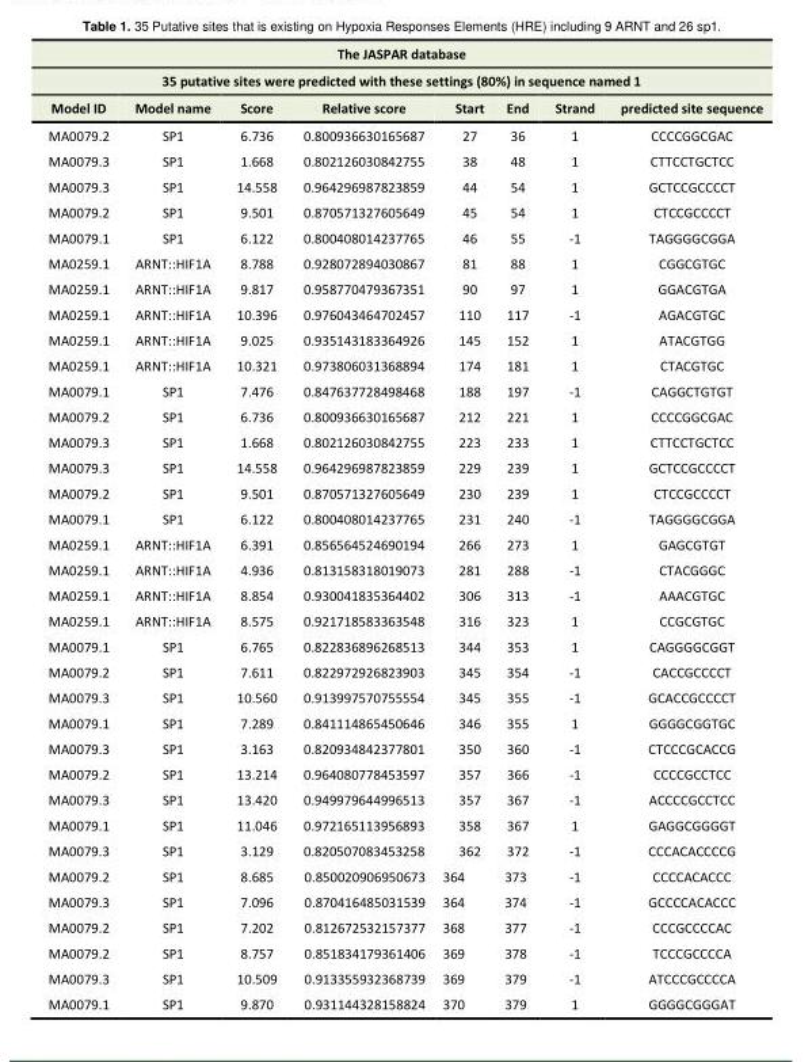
<table><tbody><tr><td colspan="8">The JASPAR database</td></tr><tr><td colspan="8">35 putative sites were predicted with these settings (80%) in sequence named 1</td></tr><tr><td>Model ID</td><td>Model name</td><td>Score</td><td>Relative score</td><td>Start</td><td>End</td><td>Strand</td><td>predicted site sequence</td></tr><tr><td>MA0079.2</td><td>SP1</td><td>6.736</td><td>0.800936630165687</td><td>27</td><td>36</td><td>1</td><td>CCCCGGCGAC</td></tr><tr><td>MA0079.3</td><td>SP1</td><td>1.668</td><td>0.802126030842755</td><td>38</td><td>48</td><td>1</td><td>CTTCCTGCTCC</td></tr><tr><td>MA0079.3</td><td>SP1</td><td>14.558</td><td>0.964296987823859</td><td>44</td><td>54</td><td>1</td><td>GCTCCGCCCCT</td></tr><tr><td>MA0079.2</td><td>SP1</td><td>9.501</td><td>0.870571327605649</td><td>45</td><td>54</td><td>1</td><td>CTCCGCCCCT</td></tr><tr><td>MA0079.1</td><td>SP1</td><td>6.122</td><td>0.800408014237765</td><td>46</td><td>55</td><td>-1</td><td>TAGGGGCGGA</td></tr><tr><td>MA0259.1</td><td>ARNT::HIF1A</td><td>8.788</td><td>0.928072894030867</td><td>81</td><td>88</td><td>1</td><td>CGGCGTGC</td></tr><tr><td>MA0259.1</td><td>ARNT::HIF1A</td><td>9.817</td><td>0.958770479367351</td><td>90</td><td>97</td><td>1</td><td>GGACGTGA</td></tr><tr><td>MA0259.1</td><td>ARNT::HIF1A</td><td>10.396</td><td>0.976043464702457</td><td>110</td><td>117</td><td>-1</td><td>AGACGTGC</td></tr><tr><td>MA0259.1</td><td>ARNT::HIF1A</td><td>9.025</td><td>0.935143183364926</td><td>145</td><td>152</td><td>1</td><td>ATACGTGG</td></tr><tr><td>MA0259.1</td><td>ARNT::HIF1A</td><td>10.321</td><td>0.973806031368894</td><td>174</td><td>181</td><td>1</td><td>CTACGTGC</td></tr><tr><td>MA0079.1</td><td>SP1</td><td>7.476</td><td>0.847637728498468</td><td>188</td><td>197</td><td>-1</td><td>CAGGCTGTGT</td></tr><tr><td>MA0079.2</td><td>SP1</td><td>6.736</td><td>0.800936630165687</td><td>212</td><td>221</td><td>1</td><td>CCCCGGCGAC</td></tr><tr><td>MA0079.3</td><td>SP1</td><td>1.668</td><td>0.802126030842755</td><td>223</td><td>233</td><td>1</td><td>CTTCCTGCTCC</td></tr><tr><td>MA0079.3</td><td>SP1</td><td>14.558</td><td>0.964296987823859</td><td>229</td><td>239</td><td>1</td><td>GCTCCGCCCCT</td></tr><tr><td>MA0079.2</td><td>SP1</td><td>9.501</td><td>0.870571327605649</td><td>230</td><td>239</td><td>1</td><td>CTCCGCCCCT</td></tr><tr><td>MA0079.1</td><td>SP1</td><td>6.122</td><td>0.800408014237765</td><td>231</td><td>240</td><td>-1</td><td>TAGGGGCGGA</td></tr><tr><td>MA0259.1</td><td>ARNT::HIF1A</td><td>6.391</td><td>0.856564524690194</td><td>266</td><td>273</td><td>1</td><td>GAGCGTGT</td></tr><tr><td>MA0259.1</td><td>ARNT::HIF1A</td><td>4.936</td><td>0.813158318019073</td><td>281</td><td>288</td><td>-1</td><td>CTACGGGC</td></tr><tr><td>MA0259.1</td><td>ARNT::HIF1A</td><td>8.854</td><td>0.930041835364402</td><td>306</td><td>313</td><td>-1</td><td>AAACGTGC</td></tr><tr><td>MA0259.1</td><td>ARNT::HIF1A</td><td>8.575</td><td>0.921718583363548</td><td>316</td><td>323</td><td>1</td><td>CCGCGTGC</td></tr><tr><td>MA0079.1</td><td>SP1</td><td>6.765</td><td>0.822836896268513</td><td>344</td><td>353</td><td>1</td><td>CAGGGGCGGT</td></tr><tr><td>MA0079.2</td><td>SP1</td><td>7.611</td><td>0.822972926823903</td><td>345</td><td>354</td><td>-1</td><td>CACCGCCCCT</td></tr><tr><td>MA0079.3</td><td>SP1</td><td>10.560</td><td>0.913997570755554</td><td>345</td><td>355</td><td>-1</td><td>GCACCGCCCCT</td></tr><tr><td>MA0079.1</td><td>SP1</td><td>7.289</td><td>0.841114865450646</td><td>346</td><td>355</td><td>1</td><td>GGGGCGGTGC</td></tr><tr><td>MA0079.3</td><td>SP1</td><td>3.163</td><td>0.820934842377801</td><td>350</td><td>360</td><td>-1</td><td>CTCCCGCACCG</td></tr><tr><td>MA0079.2</td><td>SP1</td><td>13.214</td><td>0.964080778453597</td><td>357</td><td>366</td><td>-1</td><td>CCCCGCCTCC</td></tr><tr><td>MA0079.3</td><td>SP1</td><td>13.420</td><td>0.949979644996513</td><td>357</td><td>367</td><td>-1</td><td>ACCCCGCCTCC</td></tr><tr><td>MA0079.1</td><td>SP1</td><td>11.046</td><td>0.972165113956893</td><td>358</td><td>367</td><td>1</td><td>GAGGCGGGGT</td></tr><tr><td>MA0079.3</td><td>SP1</td><td>3.129</td><td>0.820507083453258</td><td>362</td><td>372</td><td>-1</td><td>CCCACACCCCG</td></tr><tr><td>MA0079.2</td><td>SP1</td><td>8.685</td><td>0.850020906950673</td><td>364</td><td>373</td><td>-1</td><td>CCCCACACCC</td></tr><tr><td>MA0079.3</td><td>SP1</td><td>7.096</td><td>0.870416485031539</td><td>364</td><td>374</td><td>-1</td><td>GCCCCACACCC</td></tr><tr><td>MA0079.2</td><td>SP1</td><td>7.202</td><td>0.812672532157377</td><td>368</td><td>377</td><td>-1</td><td>CCCGCCCCAC</td></tr><tr><td>MA0079.2</td><td>SP1</td><td>8.757</td><td>0.851834179361406</td><td>369</td><td>378</td><td>-1</td><td>TCCCGCCCCA</td></tr><tr><td>MA0079.3</td><td>SP1</td><td>10.509</td><td>0.913355932368739</td><td>369</td><td>379</td><td>-1</td><td>ATCCCGCCCCA</td></tr><tr><td>MA0079.1</td><td>SP1</td><td>9.870</td><td>0.931144328158824</td><td>370</td><td>379</td><td>1</td><td>GGGGCGGGAT</td></tr></tbody></table>